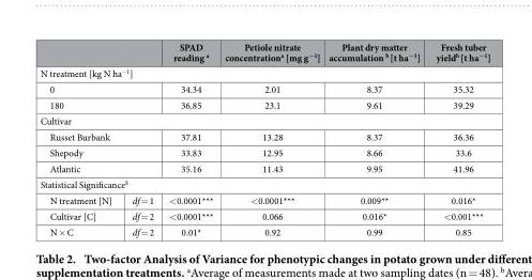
<table><thead><tr><td></td><td></td><td>SPAD reading <sup>a</sup></td><td>Petiole nitrate concentration<sup>a</sup> [mg g<sup>−1</sup>]</td><td>Plant dry matter accumulation <sup>b</sup> [t ha<sup>−1</sup>]</td><td>Fresh tuber yield<sup>b</sup> [t ha<sup>−1</sup>]</td></tr></thead><tbody><tr><td colspan="6">N treatment [kg N ha<sup>−1</sup>]</td></tr><tr><td colspan="2">0</td><td>34.34</td><td>2.01</td><td>8.37</td><td>35.32</td></tr><tr><td colspan="2">180</td><td>36.85</td><td>23.1</td><td>9.61</td><td>39.29</td></tr><tr><td colspan="6">Cultivar</td></tr><tr><td colspan="2">Russet Burbank</td><td>37.81</td><td>13.28</td><td>8.37</td><td>36.36</td></tr><tr><td colspan="2">Shepody</td><td>33.83</td><td>12.95</td><td>8.66</td><td>33.6</td></tr><tr><td colspan="2">Atlantic</td><td>35.16</td><td>11.43</td><td>9.95</td><td>41.96</td></tr><tr><td colspan="6">Statistical Significance<sup>$</sup></td></tr><tr><td>N treatment [N]</td><td>df = 1</td><td>&lt; 0.0001***</td><td>&lt; 0.0001***</td><td>0.009**</td><td>0.016*</td></tr><tr><td>Cultivar [C]</td><td>df = 2</td><td>&lt; 0.0001***</td><td>0.066</td><td>0.016*</td><td>&lt; 0.001***</td></tr><tr><td>N × C</td><td>df = 2</td><td>0.01*</td><td>0.92</td><td>0.99</td><td>0.85</td></tr></tbody></table>